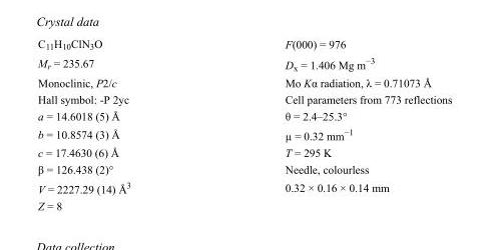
<table><tbody><tr><td>C<sub>11</sub>H<sub>10</sub>ClN<sub>3</sub>O</td><td>F(000) = 976</td></tr><tr><td>M<sub>r</sub> = 235.67</td><td>D<sub>x</sub> = 1.406 Mg m<sup>−3</sup></td></tr><tr><td>Monoclinic, P2/c</td><td>Mo Kα radiation, λ = 0.71073 Å</td></tr><tr><td>Hall symbol: -P 2yc</td><td>Cell parameters from 773 reflections</td></tr><tr><td>a = 14.6018 (5) Å</td><td>θ = 2.4–25.3°</td></tr><tr><td>b = 10.8574 (3) Å</td><td>µ = 0.32 mm<sup>−1</sup></td></tr><tr><td>c = 17.4630 (6) Å</td><td>T = 295 K</td></tr><tr><td>β = 126.438 (2)°</td><td>Needle, colourless</td></tr><tr><td>V = 2227.29 (14) Å<sup>3</sup></td><td>0.32 × 0.16 × 0.14 mm</td></tr><tr><td>Z = 8</td><td></td></tr></tbody></table>